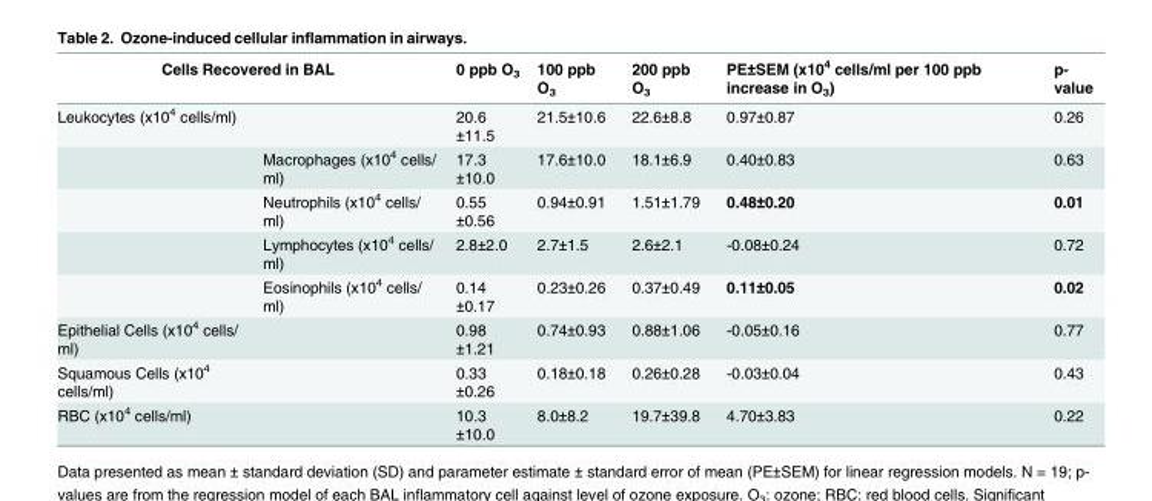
<table><thead><tr><td colspan="2">Cells Recovered in BAL</td><td rowspan="2">0 ppb O<sub>3</sub> 20.6 ±11.5</td><td rowspan="2">100 ppb O<sub>3</sub> 21.5±10.6</td><td rowspan="2">200 ppb O<sub>3</sub> 22.6±8.8</td><td rowspan="2">PE±SEM (x10<sup>4</sup> cells/ml per 100 ppb increase in O<sub>3</sub>) 0.97±0.87</td><td rowspan="2">p- value 0.26</td></tr><tr><td>Leukocytes (x10<sup>4</sup> cells/ml)</td><td></td></tr></thead><tbody><tr><td></td><td>Macrophages (x10<sup>4</sup> cells/ ml)</td><td>17.3 ±10.0</td><td>17.6±10.0</td><td>18.1±6.9</td><td>0.40±0.83</td><td>0.63</td></tr><tr><td></td><td>Neutrophils (x10<sup>4</sup> cells/ ml)</td><td>0.55 ±0.56</td><td>0.94±0.91</td><td>1.51±1.79</td><td>0.48±0.20</td><td>0.01</td></tr><tr><td></td><td>Lymphocytes (x10<sup>4</sup> cells/ ml)</td><td>2.8±2.0</td><td>2.7±1.5</td><td>2.6±2.1</td><td>-0.08±0.24</td><td>0.72</td></tr><tr><td></td><td>Eosinophils (x10<sup>4</sup> cells/ ml)</td><td>0.14 ±0.17</td><td>0.23±0.26</td><td>0.37±0.49</td><td>0.11±0.05</td><td>0.02</td></tr><tr><td>Epithelial Cells (x10<sup>4</sup> cells/ ml)</td><td></td><td>0.98 ±1.21</td><td>0.74±0.93</td><td>0.88±1.06</td><td>-0.05±0.16</td><td>0.77</td></tr><tr><td>Squamous Cells (x10<sup>4</sup> cells/ml)</td><td></td><td>0.33 ±0.26</td><td>0.18±0.18</td><td>0.26±0.28</td><td>-0.03±0.04</td><td>0.43</td></tr><tr><td>RBC (x10<sup>4</sup> cells/ml)</td><td></td><td>10.3 ±10.0</td><td>8.0±8.2</td><td>19.7±39.8</td><td>4.70±3.83</td><td>0.22</td></tr></tbody></table>